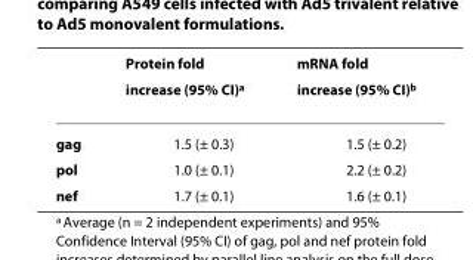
<table><thead><tr><td></td><td>Protein fold increase (95% CI)<sup>a</sup></td><td>mRNA fold increase (95% CI)<sup>b</sup></td></tr></thead><tbody><tr><td>gag</td><td>1.5 (± 0.3)</td><td>1.5 (± 0.2)</td></tr><tr><td>pol</td><td>1.0 (± 0.1)</td><td>2.2 (± 0.2)</td></tr><tr><td>nef</td><td>1.7 (± 0.1)</td><td>1.6 (± 0.1)</td></tr></tbody></table>